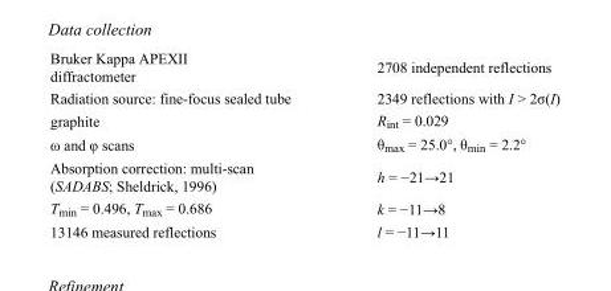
<table><tbody><tr><td>Bruker Kappa APEXII diffractometer</td><td>2708 independent reflections</td></tr><tr><td>Radiation source: fine-focus sealed tube</td><td>2349 reflections with I &gt; 2σ(I)</td></tr><tr><td>graphite</td><td>R<sub>int</sub> = 0.029</td></tr><tr><td>ω and φ scans</td><td>θ<sub>max</sub> = 25.0°, θ<sub>min</sub> = 2.2°</td></tr><tr><td>Absorption correction: multi-scan (SADABS; Sheldrick, 1996)</td><td>h = −21→21</td></tr><tr><td>T<sub>min</sub> = 0.496, T<sub>max</sub> = 0.686</td><td>k = −11→8</td></tr><tr><td>13146 measured reflections</td><td>l = −11→11</td></tr></tbody></table>